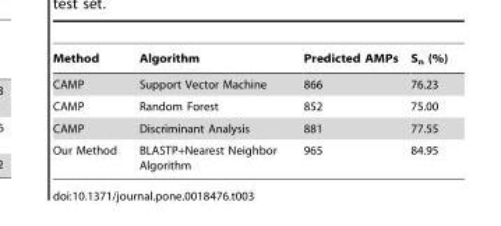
<table><thead><tr><td>Method</td><td>Algorithm</td><td>Predicted AMPs</td><td>S<sub>n</sub> (%)</td></tr></thead><tbody><tr><td>CAMP</td><td>Support Vector Machine</td><td>866</td><td>76.23</td></tr><tr><td>CAMP</td><td>Random Forest</td><td>852</td><td>75.00</td></tr><tr><td>CAMP</td><td>Discriminant Analysis</td><td>881</td><td>77.55</td></tr><tr><td>Our Method</td><td>BLASTP+Nearest Neighbor Algorithm</td><td>965</td><td>84.95</td></tr></tbody></table>